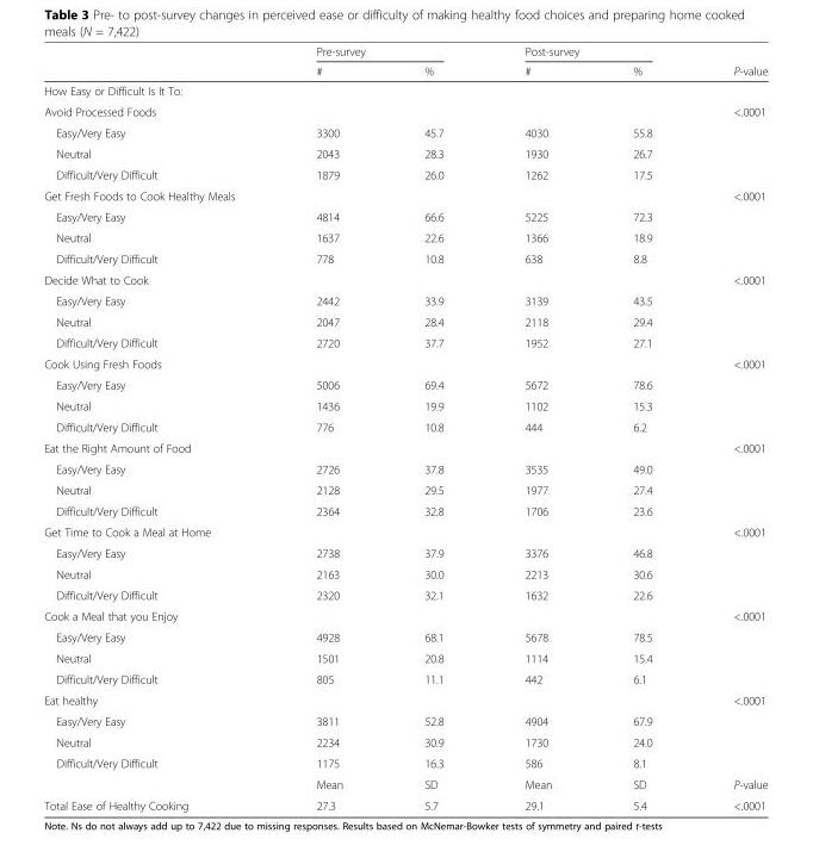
<table><thead><tr><td rowspan="2"></td><td colspan="2">Pre-survey</td><td colspan="2">Post-survey</td><td rowspan="2">P-value</td></tr><tr><td>#</td><td>%</td><td>#</td><td>%</td></tr></thead><tbody><tr><td colspan="6">How Easy or Difficult Is It To:</td></tr><tr><td>Avoid Processed Foods</td><td></td><td></td><td></td><td></td><td>&lt;.0001</td></tr><tr><td>Easy/Very Easy</td><td>3300</td><td>45.7</td><td>4030</td><td>55.8</td><td></td></tr><tr><td>Neutral</td><td>2043</td><td>28.3</td><td>1930</td><td>26.7</td><td></td></tr><tr><td>Difficult/Very Difficult</td><td>1879</td><td>26.0</td><td>1262</td><td>17.5</td><td></td></tr><tr><td>Get Fresh Foods to Cook Healthy Meals</td><td></td><td></td><td></td><td></td><td>&lt;.0001</td></tr><tr><td>Easy/Very Easy</td><td>4814</td><td>66.6</td><td>5225</td><td>72.3</td><td></td></tr><tr><td>Neutral</td><td>1637</td><td>22.6</td><td>1366</td><td>18.9</td><td></td></tr><tr><td>Difficult/Very Difficult</td><td>778</td><td>10.8</td><td>638</td><td>8.8</td><td></td></tr><tr><td>Decide What to Cook</td><td></td><td></td><td></td><td></td><td>&lt;.0001</td></tr><tr><td>Easy/Very Easy</td><td>2442</td><td>33.9</td><td>3139</td><td>43.5</td><td></td></tr><tr><td>Neutral</td><td>2047</td><td>28.4</td><td>2118</td><td>29.4</td><td></td></tr><tr><td>Difficult/Very Difficult</td><td>2720</td><td>37.7</td><td>1952</td><td>27.1</td><td></td></tr><tr><td>Cook Using Fresh Foods</td><td></td><td></td><td></td><td></td><td>&lt;.0001</td></tr><tr><td>Easy/Very Easy</td><td>5006</td><td>69.4</td><td>5672</td><td>78.6</td><td></td></tr><tr><td>Neutral</td><td>1436</td><td>19.9</td><td>1102</td><td>15.3</td><td></td></tr><tr><td>Difficult/Very Difficult</td><td>776</td><td>10.8</td><td>444</td><td>6.2</td><td></td></tr><tr><td>Eat the Right Amount of Food</td><td></td><td></td><td></td><td></td><td>&lt;.0001</td></tr><tr><td>Easy/Very Easy</td><td>2726</td><td>37.8</td><td>3535</td><td>49.0</td><td></td></tr><tr><td>Neutral</td><td>2128</td><td>29.5</td><td>1977</td><td>27.4</td><td></td></tr><tr><td>Difficult/Very Difficult</td><td>2364</td><td>32.8</td><td>1706</td><td>23.6</td><td></td></tr><tr><td>Get Time to Cook a Meal at Home</td><td></td><td></td><td></td><td></td><td>&lt;.0001</td></tr><tr><td>Easy/Very Easy</td><td>2738</td><td>37.9</td><td>3376</td><td>46.8</td><td></td></tr><tr><td>Neutral</td><td>2163</td><td>30.0</td><td>2213</td><td>30.6</td><td></td></tr><tr><td>Difficult/Very Difficult</td><td>2320</td><td>32.1</td><td>1632</td><td>22.6</td><td></td></tr><tr><td>Cook a Meal that you Enjoy</td><td></td><td></td><td></td><td></td><td>&lt;.0001</td></tr><tr><td>Easy/Very Easy</td><td>4928</td><td>68.1</td><td>5678</td><td>78.5</td><td></td></tr><tr><td>Neutral</td><td>1501</td><td>20.8</td><td>1114</td><td>15.4</td><td></td></tr><tr><td>Difficult/Very Difficult</td><td>805</td><td>11.1</td><td>442</td><td>6.1</td><td></td></tr><tr><td>Eat healthy</td><td></td><td></td><td></td><td></td><td>&lt;.0001</td></tr><tr><td>Easy/Very Easy</td><td>3811</td><td>52.8</td><td>4904</td><td>67.9</td><td></td></tr><tr><td>Neutral</td><td>2234</td><td>30.9</td><td>1730</td><td>24.0</td><td></td></tr><tr><td rowspan="2">Difficult/Very Difficult</td><td>1175</td><td>16.3</td><td>586</td><td>8.1</td><td></td></tr><tr><td>Mean</td><td>SD</td><td>Mean</td><td>SD</td><td>P-value</td></tr><tr><td>Total Ease of Healthy Cooking</td><td>27.3</td><td>5.7</td><td>29.1</td><td>5.4</td><td>&lt;.0001</td></tr></tbody></table>